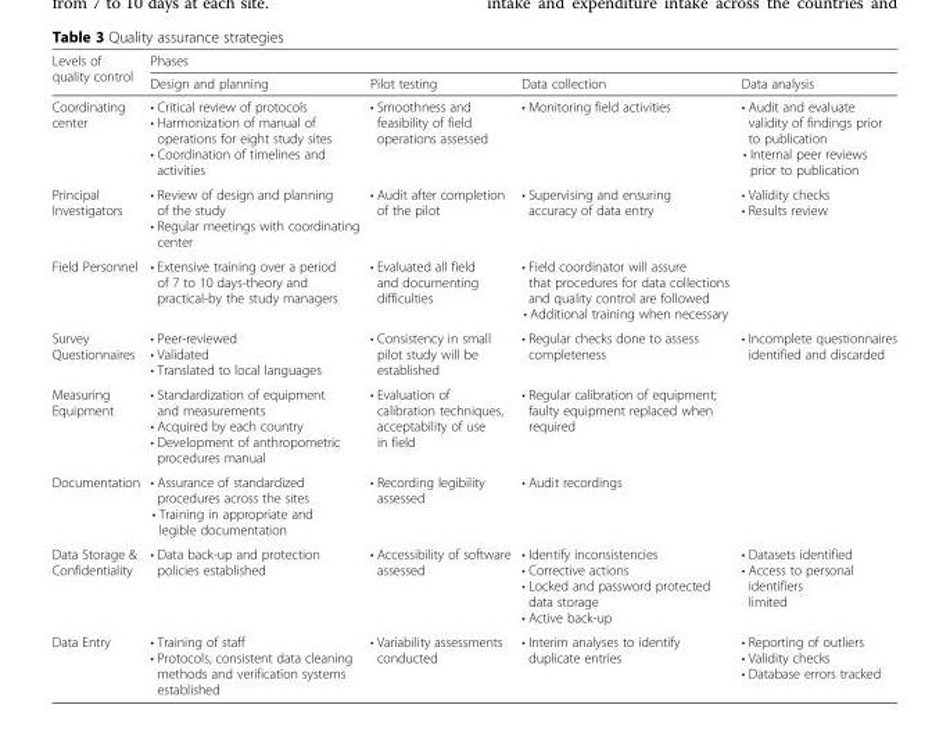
<table><thead><tr><td rowspan="2">Levels of quality control</td><td colspan="4">Phases</td></tr><tr><td>Design and planning</td><td>Pilot testing</td><td>Data collection</td><td>Data analysis</td></tr></thead><tbody><tr><td>Coordinating center</td><td>• Critical review of protocols • Harmonization of manual of operations for eight study sites • Coordination of timelines and activities</td><td>• Smoothness and feasibility of field operations assessed</td><td>• Monitoring field activities</td><td>• Audit and evaluate validity of findings prior to publication • Internal peer reviews prior to publication</td></tr><tr><td>Principal Investigators</td><td>• Review of design and planning of the study • Regular meetings with coordinating center</td><td>• Audit after completion of the pilot</td><td>• Supervising and ensuring accuracy of data entry</td><td>• Validity checks • Results review</td></tr><tr><td>Field Personnel</td><td>• Extensive training over a period of 7 to 10 days-theory and practical-by the study managers</td><td>• Evaluated all field and documenting difficulties</td><td>• Field coordinator will assure that procedures for data collections and quality control are followed • Additional training when necessary</td><td></td></tr><tr><td>Survey Questionnaires</td><td>• Peer-reviewed • Validated • Translated to local languages</td><td>• Consistency in small pilot study will be established</td><td>• Regular checks done to assess completeness</td><td>• Incomplete questionnaires identified and discarded</td></tr><tr><td>Measuring Equipment</td><td>• Standardization of equipment and measurements • Acquired by each country • Development of anthropometric procedures manual</td><td>• Evaluation of calibration techniques, acceptability of use in field</td><td>• Regular calibration of equipment; faulty equipment replaced when required</td><td></td></tr><tr><td>Documentation</td><td>• Assurance of standardized procedures across the sites • Training in appropriate and legible documentation</td><td>• Recording legibility assessed</td><td>• Audit recordings</td><td></td></tr><tr><td>Data Storage &amp; Confidentiality</td><td>• Data back-up and protection policies established</td><td>• Accessibility of software assessed</td><td>• Identify inconsistencies • Corrective actions • Locked and password protected data storage • Active back-up</td><td>• Datasets identified • Access to personal identifiers limited</td></tr><tr><td>Data Entry</td><td>• Training of staff • Protocols, consistent data cleaning methods and verification systems established</td><td>• Variability assessments conducted</td><td>• Interim analyses to identify duplicate entries</td><td>• Reporting of outliers • Validity checks • Database errors tracked</td></tr></tbody></table>